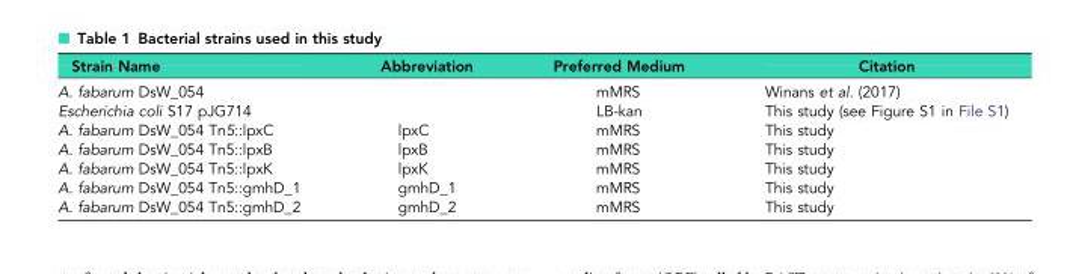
<table><thead><tr><td>Strain Name</td><td>Abbreviation</td><td>Preferred Medium</td><td>Citation</td></tr></thead><tbody><tr><td>A. fabarum DsW_054</td><td></td><td>mMRS</td><td>Winans et al. (2017)</td></tr><tr><td>Escherichia coli S17 pJG714</td><td></td><td>LB-kan</td><td>This study (see Figure S1 in File S1)</td></tr><tr><td>A. fabarum DsW_054 Tn5::lpxC</td><td>lpxC</td><td>mMRS</td><td>This study</td></tr><tr><td>A. fabarum DsW_054 Tn5::lpxB</td><td>lpxB</td><td>mMRS</td><td>This study</td></tr><tr><td>A. fabarum DsW_054 Tn5::lpxK</td><td>lpxK</td><td>mMRS</td><td>This study</td></tr><tr><td>A. fabarum DsW_054 Tn5::gmhD_1</td><td>gmhD_1</td><td>mMRS</td><td>This study</td></tr><tr><td>A. fabarum DsW_054 Tn5::gmhD_2</td><td>gmhD_2</td><td>mMRS</td><td>This study</td></tr></tbody></table>